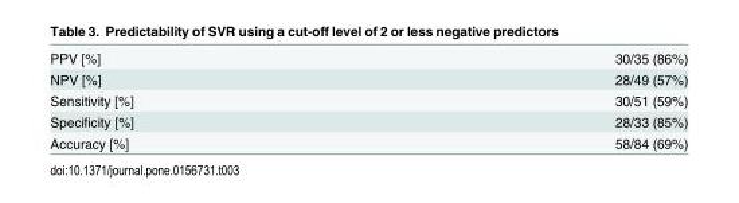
<table><tbody><tr><td>PPV [%]</td><td>30/35 (86%)</td></tr><tr><td>NPV [%]</td><td>28/49 (57%)</td></tr><tr><td>Sensitivity [%]</td><td>30/51 (59%)</td></tr><tr><td>Specificity [%]</td><td>28/33 (85%)</td></tr><tr><td>Accuracy [%]</td><td>58/84 (69%)</td></tr></tbody></table>